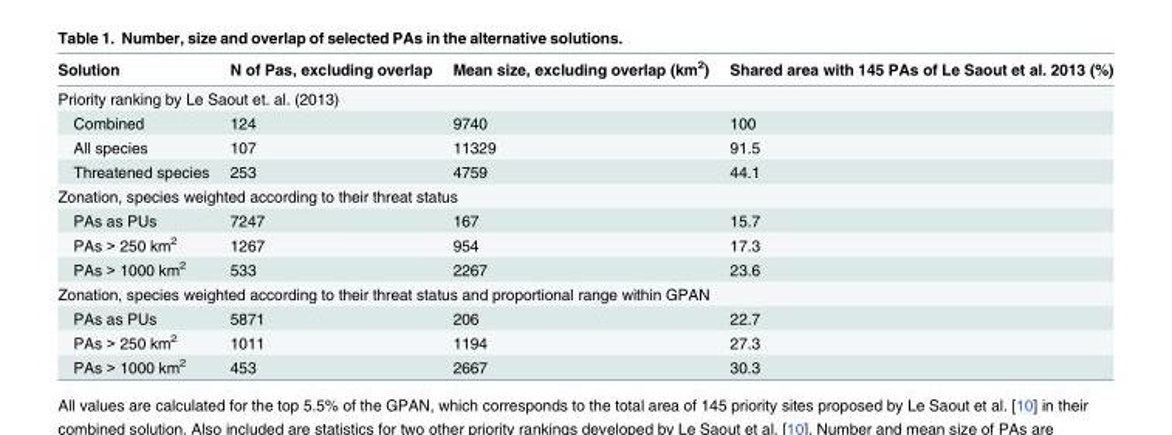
<table><thead><tr><td>Solution</td><td>N of Pas, excluding overlap</td><td>Mean size, excluding overlap (km<sup>2</sup>)</td><td>Shared area with 145 PAs of Le Saout et al. 2013 (%)</td></tr></thead><tbody><tr><td colspan="4">Priority ranking by Le Saout et. al. (2013)</td></tr><tr><td>Combined</td><td>124</td><td>9740</td><td>100</td></tr><tr><td>All species</td><td>107</td><td>11329</td><td>91.5</td></tr><tr><td>Threatened species</td><td>253</td><td>4759</td><td>44.1</td></tr><tr><td colspan="4">Zonation, species weighted according to their threat status</td></tr><tr><td>PAs as PUs</td><td>7247</td><td>167</td><td>15.7</td></tr><tr><td>PAs &gt; 250 km<sup>2</sup></td><td>1267</td><td>954</td><td>17.3</td></tr><tr><td>PAs &gt; 1000 km<sup>2</sup></td><td>533</td><td>2267</td><td>23.6</td></tr><tr><td colspan="4">Zonation, species weighted according to their threat status and proportional range within GPAN</td></tr><tr><td>PAs as PUs</td><td>5871</td><td>206</td><td>22.7</td></tr><tr><td>PAs &gt; 250 km<sup>2</sup></td><td>1011</td><td>1194</td><td>27.3</td></tr><tr><td>PAs &gt; 1000 km<sup>2</sup></td><td>453</td><td>2667</td><td>30.3</td></tr></tbody></table>